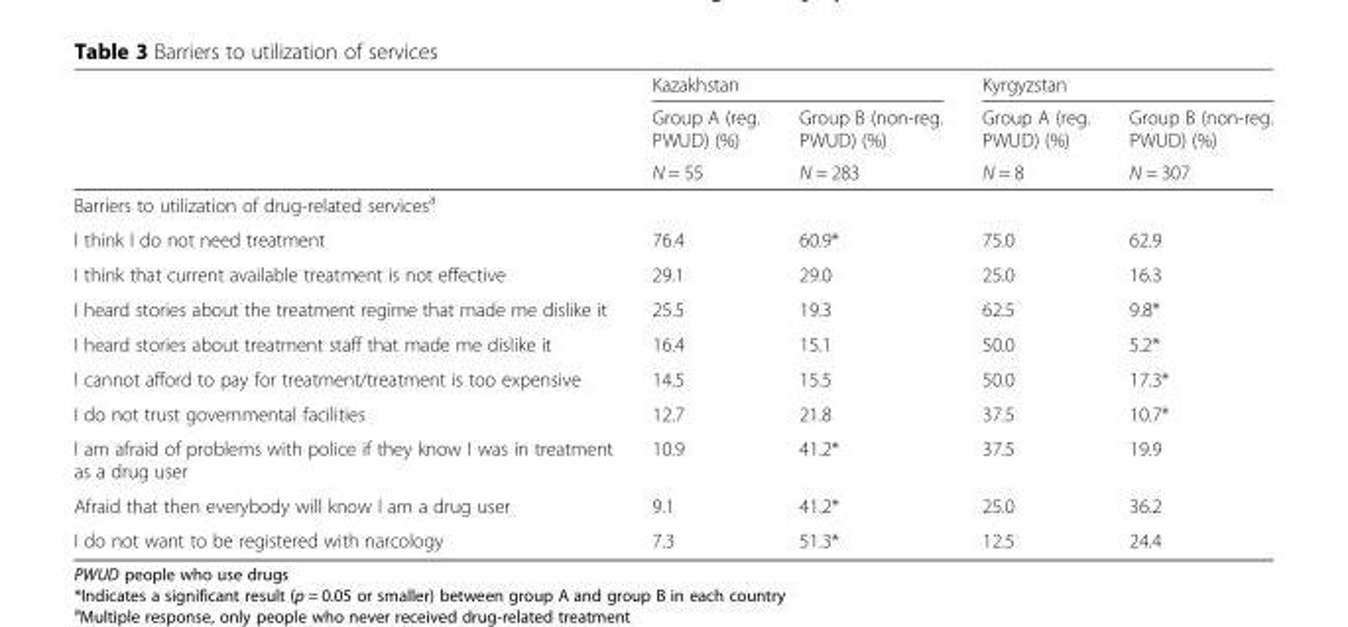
<table><thead><tr><td rowspan="3"></td><td colspan="2">Kazakhstan</td><td colspan="2">Kyrgyzstan</td></tr><tr><td rowspan="2">Group A (reg. PWUD) (%) N = 55</td><td rowspan="2">Group B (non-reg. PWUD) (%) N = 283</td><td rowspan="2">Group A (reg. PWUD) (%) N = 8</td><td rowspan="2">Group B (non-reg. PWUD) (%) N = 307</td></tr><tr></tr></thead><tbody><tr><td colspan="5">Barriers to utilization of drug-related services<sup>a</sup></td></tr><tr><td>I think I do not need treatment</td><td>76.4</td><td>60.9*</td><td>75.0</td><td>62.9</td></tr><tr><td>I think that current available treatment is not effective</td><td>29.1</td><td>29.0</td><td>25.0</td><td>16.3</td></tr><tr><td>I heard stories about the treatment regime that made me dislike it</td><td>25.5</td><td>19.3</td><td>62.5</td><td>9.8*</td></tr><tr><td>I heard stories about treatment staff that made me dislike it</td><td>16.4</td><td>15.1</td><td>50.0</td><td>5.2*</td></tr><tr><td>I cannot afford to pay for treatment/treatment is too expensive</td><td>14.5</td><td>15.5</td><td>50.0</td><td>17.3*</td></tr><tr><td>I do not trust governmental facilities</td><td>12.7</td><td>21.8</td><td>37.5</td><td>10.7*</td></tr><tr><td>I am afraid of problems with police if they know I was in treatment as a drug user</td><td>10.9</td><td>41.2*</td><td>37.5</td><td>19.9</td></tr><tr><td>Afraid that then everybody will know I am a drug user</td><td>9.1</td><td>41.2*</td><td>25.0</td><td>36.2</td></tr><tr><td>I do not want to be registered with narcology</td><td>7.3</td><td>51.3*</td><td>12.5</td><td>24.4</td></tr></tbody></table>